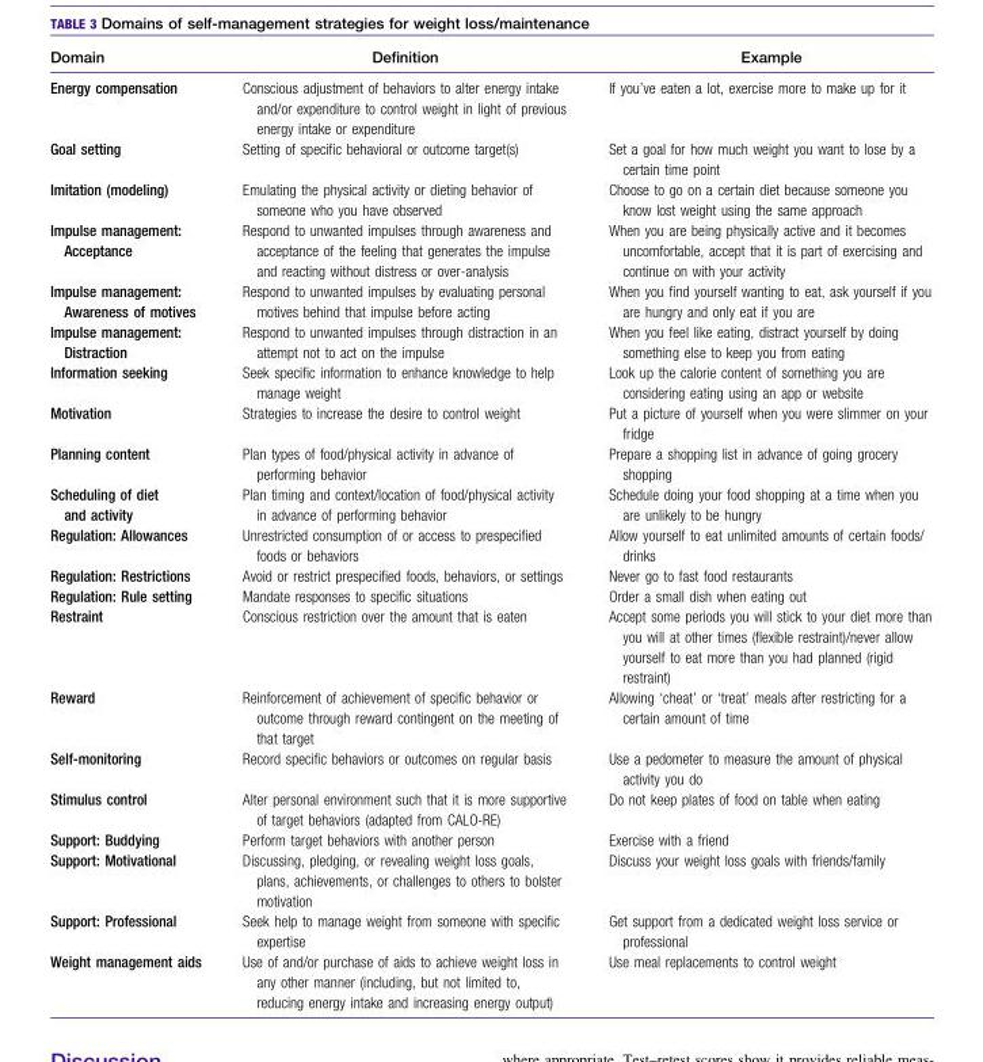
<table><thead><tr><td>Domain</td><td>Definition</td><td>Example</td></tr></thead><tbody><tr><td>Energy compensation</td><td>Conscious adjustment of behaviors to alter energy intake and/or expenditure to control weight in light of previous energy intake or expenditure</td><td>If you’ve eaten a lot, exercise more to make up for it</td></tr><tr><td>Goal setting</td><td>Setting of specific behavioral or outcome target(s)</td><td>Set a goal for how much weight you want to lose by a certain time point</td></tr><tr><td>Imitation (modeling)</td><td>Emulating the physical activity or dieting behavior of someone who you have observed</td><td>Choose to go on a certain diet because someone you know lost weight using the same approach</td></tr><tr><td>Impulse management: Acceptance</td><td>Respond to unwanted impulses through awareness and acceptance of the feeling that generates the impulse and reacting without distress or over-analysis</td><td>When you are being physically active and it becomes uncomfortable, accept that it is part of exercising and continue on with your activity</td></tr><tr><td>Impulse management: Awareness of motives</td><td>Respond to unwanted impulses by evaluating personal motives behind that impulse before acting</td><td>When you find yourself wanting to eat, ask yourself if you are hungry and only eat if you are</td></tr><tr><td>Impulse management: Distraction</td><td>Respond to unwanted impulses through distraction in an attempt not to act on the impulse</td><td>When you feel like eating, distract yourself by doing something else to keep you from eating</td></tr><tr><td>Information seeking</td><td>Seek specific information to enhance knowledge to help manage weight</td><td>Look up the calorie content of something you are considering eating using an app or website</td></tr><tr><td>Motivation</td><td>Strategies to increase the desire to control weight</td><td>Put a picture of yourself when you were slimmer on your fridge</td></tr><tr><td>Planning content</td><td>Plan types of food/physical activity in advance of performing behavior</td><td>Prepare a shopping list in advance of going grocery shopping</td></tr><tr><td>Scheduling of diet and activity</td><td>Plan timing and context/location of food/physical activity in advance of performing behavior</td><td>Schedule doing your food shopping at a time when you are unlikely to be hungry</td></tr><tr><td>Regulation: Allowances</td><td>Unrestricted consumption of or access to prespecified foods or behaviors</td><td>Allow yourself to eat unlimited amounts of certain foods/ drinks</td></tr><tr><td>Regulation: Restrictions</td><td>Avoid or restrict prespecified foods, behaviors, or settings</td><td>Never go to fast food restaurants</td></tr><tr><td>Regulation: Rule setting</td><td>Mandate responses to specific situations</td><td>Order a small dish when eating out</td></tr><tr><td>Restraint</td><td>Conscious restriction over the amount that is eaten</td><td>Accept some periods you will stick to your diet more than you will at other times (flexible restraint)/never allow yourself to eat more than you had planned (rigid restraint)</td></tr><tr><td>Reward</td><td>Reinforcement of achievement of specific behavior or outcome through reward contingent on the meeting of that target</td><td>Allowing ‘cheat’ or ‘treat’ meals after restricting for a certain amount of time</td></tr><tr><td>Self-monitoring</td><td>Record specific behaviors or outcomes on regular basis</td><td>Use a pedometer to measure the amount of physical activity you do</td></tr><tr><td>Stimulus control</td><td>Alter personal environment such that it is more supportive of target behaviors (adapted from CALO-RE)</td><td>Do not keep plates of food on table when eating</td></tr><tr><td>Support: Buddying</td><td>Perform target behaviors with another person</td><td>Exercise with a friend</td></tr><tr><td>Support: Motivational</td><td>Discussing, pledging, or revealing weight loss goals, plans, achievements, or challenges to others to bolster motivation</td><td>Discuss your weight loss goals with friends/family</td></tr><tr><td>Support: Professional</td><td>Seek help to manage weight from someone with specific expertise</td><td>Get support from a dedicated weight loss service or professional</td></tr><tr><td>Weight management aids</td><td>Use of and/or purchase of aids to achieve weight loss in any other manner (including, but not limited to, reducing energy intake and increasing energy output)</td><td>Use meal replacements to control weight</td></tr></tbody></table>